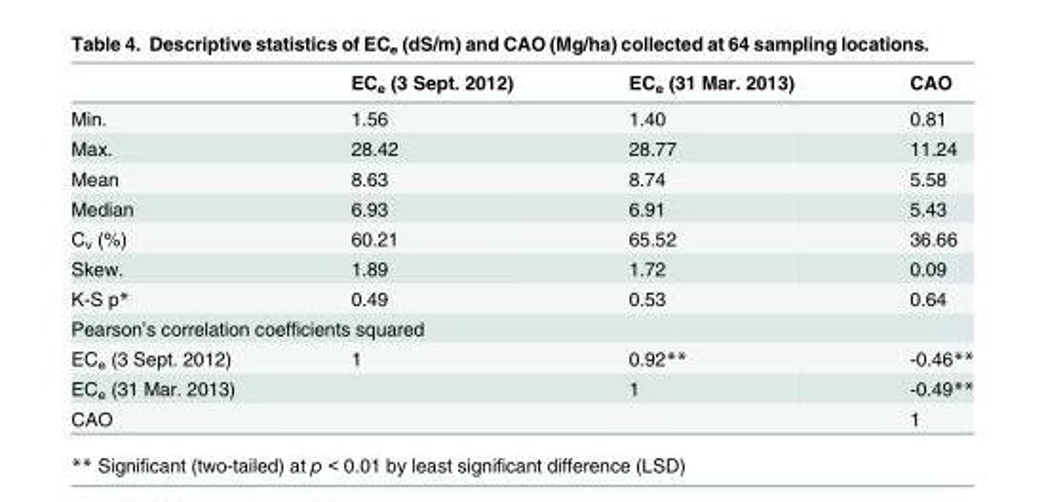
<table><thead><tr><td></td><td>EC<sub>e</sub> (3 Sept. 2012)</td><td>EC<sub>e</sub> (31 Mar. 2013)</td><td>CAO</td></tr></thead><tbody><tr><td>Min.</td><td>1.56</td><td>1.40</td><td>0.81</td></tr><tr><td>Max.</td><td>28.42</td><td>28.77</td><td>11.24</td></tr><tr><td>Mean</td><td>8.63</td><td>8.74</td><td>5.58</td></tr><tr><td>Median</td><td>6.93</td><td>6.91</td><td>5.43</td></tr><tr><td>C<sub>v</sub> (%)</td><td>60.21</td><td>65.52</td><td>36.66</td></tr><tr><td>Skew.</td><td>1.89</td><td>1.72</td><td>0.09</td></tr><tr><td>K-S p*</td><td>0.49</td><td>0.53</td><td>0.64</td></tr><tr><td colspan="4">Pearson’s correlation coefficients squared</td></tr><tr><td>EC<sub>e</sub> (3 Sept. 2012)</td><td>1</td><td>0.92**</td><td>-0.46**</td></tr><tr><td>EC<sub>e</sub> (31 Mar. 2013)</td><td></td><td>1</td><td>-0.49**</td></tr><tr><td>CAO</td><td></td><td></td><td>1</td></tr></tbody></table>